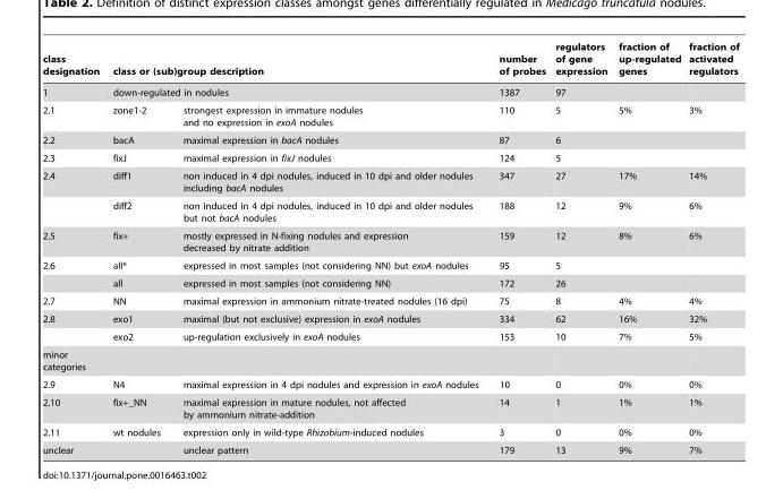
<table><thead><tr><td rowspan="3">class designation 1 2.1</td><td rowspan="2" colspan="2">class or (sub)group description down-regulated in nodules</td><td rowspan="3">number of probes 1387 110</td><td rowspan="3">regulators of gene expression 97 5</td><td rowspan="3">fraction of up-regulated genes 5%</td><td rowspan="3">fraction of activated regulators 3%</td></tr><tr></tr><tr><td>zone1-2</td><td>strongest expression in immature nodules and no expression in exoA nodules</td></tr></thead><tbody><tr><td>2.2</td><td>bacA</td><td>maximal expression in bacA nodules</td><td>87</td><td>6</td><td></td><td></td></tr><tr><td>2.3</td><td>fixJ</td><td>maximal expression in fixJ nodules</td><td>124</td><td>5</td><td></td><td></td></tr><tr><td rowspan="2">2.4</td><td>diff1</td><td>non induced in 4 dpi nodules, induced in 10 dpi and older nodules including bacA nodules</td><td>347</td><td>27</td><td>17%</td><td>14%</td></tr><tr><td>diff2</td><td>non induced in 4 dpi nodules, induced in 10 dpi and older nodules but not bacA nodules</td><td>188</td><td>12</td><td>9%</td><td>6%</td></tr><tr><td>2.5</td><td>fix+</td><td>mostly expressed in N-fixing nodules and expression decreased by nitrate addition</td><td>159</td><td>12</td><td>8%</td><td>6%</td></tr><tr><td rowspan="2">2.6</td><td>all*</td><td>expressed in most samples (not considering NN) but exoA nodules</td><td>95</td><td>5</td><td></td><td></td></tr><tr><td>all</td><td>expressed in most samples (not considering NN)</td><td>172</td><td>26</td><td></td><td></td></tr><tr><td>2.7</td><td>NN</td><td>maximal expression in ammonium nitrate-treated nodules (16 dpi)</td><td>75</td><td>8</td><td>4%</td><td>4%</td></tr><tr><td rowspan="2">2.8</td><td>exo1</td><td>maximal (but not exclusive) expression in exoA nodules</td><td>334</td><td>62</td><td>16%</td><td>32%</td></tr><tr><td>exo2</td><td>up-regulation exclusively in exoA nodules</td><td>153</td><td>10</td><td>7%</td><td>5%</td></tr><tr><td colspan="7">minor categories</td></tr><tr><td>2.9</td><td>N4</td><td>maximal expression in 4 dpi nodules and expression in exoA nodules</td><td>10</td><td>0</td><td>0%</td><td>0%</td></tr><tr><td>2.10</td><td>fix+_NN</td><td>maximal expression in mature nodules, not affected by ammonium nitrate-addition</td><td>14</td><td>1</td><td>1%</td><td>1%</td></tr><tr><td>2.11</td><td>wt nodules</td><td>expression only in wild-type Rhizobium-induced nodules</td><td>3</td><td>0</td><td>0%</td><td>0%</td></tr><tr><td>unclear</td><td></td><td>unclear pattern</td><td>179</td><td>13</td><td>9%</td><td>7%</td></tr></tbody></table>